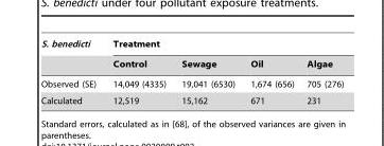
<table><thead><tr><td rowspan="2">S. benedicti</td><td colspan="4">Treatment</td></tr><tr><td>Control</td><td>Sewage</td><td>Oil</td><td>Algae</td></tr></thead><tbody><tr><td>Observed (SE)</td><td>14,049 (4335)</td><td>19,041 (6530)</td><td>1,674 (656)</td><td>705 (276)</td></tr><tr><td>Calculated</td><td>12,519</td><td>15,162</td><td>671</td><td>231</td></tr></tbody></table>